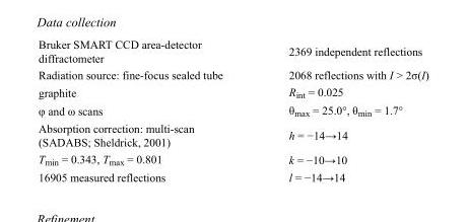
<table><tbody><tr><td>Bruker SMART CCD area-detector diffractometer</td><td>2369 independent reflections</td></tr><tr><td>Radiation source: fine-focus sealed tube</td><td>2068 reflections with I &gt; 2σ(I)</td></tr><tr><td>graphite</td><td>R<sub>int</sub> = 0.025</td></tr><tr><td>φ and ω scans</td><td>θ<sub>max</sub> = 25.0°, θ<sub>min</sub> = 1.7°</td></tr><tr><td>Absorption correction: multi-scan (SADABS; Sheldrick, 2001)</td><td>h = −14→14</td></tr><tr><td>T<sub>min</sub> = 0.343, T<sub>max</sub> = 0.801</td><td>k = −10→10</td></tr><tr><td>16905 measured reflections</td><td>l = −14→14</td></tr></tbody></table>